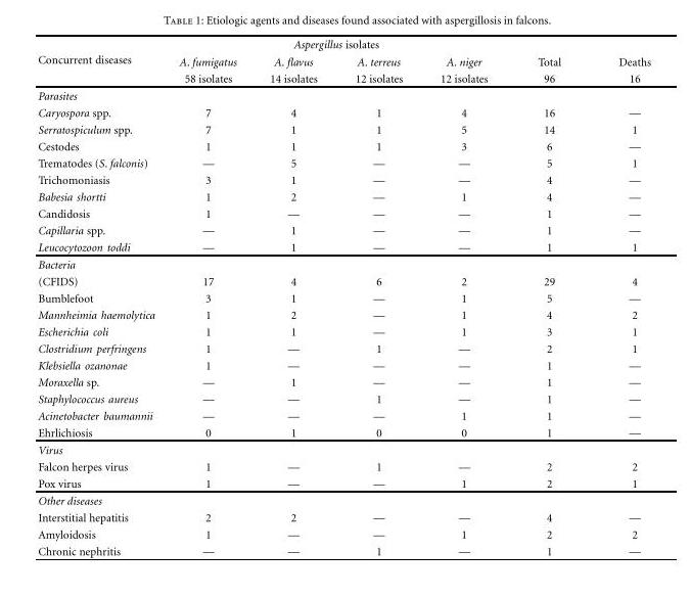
<table><thead><tr><td rowspan="3">Concurrent diseases</td><td rowspan="3">A. fumigatus 58 isolates</td><td colspan="2">Aspergillus isolates</td><td rowspan="3">A. niger 12 isolates</td><td rowspan="3">Total 96</td><td rowspan="3">Deaths 16</td></tr><tr><td rowspan="2">A. flavus 14 isolates</td><td rowspan="2">A. terreus 12 isolates</td></tr><tr></tr></thead><tbody><tr><td colspan="7">Parasites</td></tr><tr><td>Caryospora spp.</td><td>7</td><td>4</td><td>1</td><td>4</td><td>16</td><td>—</td></tr><tr><td>Serratospiculum spp.</td><td>7</td><td>1</td><td>1</td><td>5</td><td>14</td><td>1</td></tr><tr><td>Cestodes</td><td>1</td><td>1</td><td>1</td><td>3</td><td>6</td><td>—</td></tr><tr><td>Trematodes (S. falconis)</td><td>—</td><td>5</td><td>—</td><td>—</td><td>5</td><td>1</td></tr><tr><td>Trichomoniasis</td><td>3</td><td>1</td><td>—</td><td>—</td><td>4</td><td>—</td></tr><tr><td>Babesia shortti</td><td>1</td><td>2</td><td>—</td><td>1</td><td>4</td><td>—</td></tr><tr><td>Candidosis</td><td>1</td><td>—</td><td>—</td><td>—</td><td>1</td><td>—</td></tr><tr><td>Capillaria spp.</td><td>—</td><td>1</td><td>—</td><td>—</td><td>1</td><td>—</td></tr><tr><td>Leucocytozoon toddi</td><td>—</td><td>1</td><td>—</td><td>—</td><td>1</td><td>1</td></tr><tr><td colspan="7">Bacteria</td></tr><tr><td>(CFIDS)</td><td>17</td><td>4</td><td>6</td><td>2</td><td>29</td><td>4</td></tr><tr><td>Bumblefoot</td><td>3</td><td>1</td><td>—</td><td>1</td><td>5</td><td>—</td></tr><tr><td>Mannheimia haemolytica</td><td>1</td><td>2</td><td>—</td><td>1</td><td>4</td><td>2</td></tr><tr><td>Escherichia coli</td><td>1</td><td>1</td><td>—</td><td>1</td><td>3</td><td>1</td></tr><tr><td>Clostridium perfringens</td><td>1</td><td>—</td><td>1</td><td>—</td><td>2</td><td>1</td></tr><tr><td>Klebsiella ozanonae</td><td>1</td><td>—</td><td>—</td><td>—</td><td>1</td><td>—</td></tr><tr><td>Moraxella sp.</td><td>—</td><td>1</td><td>—</td><td>—</td><td>1</td><td>—</td></tr><tr><td>Staphylococcus aureus</td><td>—</td><td>—</td><td>1</td><td>—</td><td>1</td><td>—</td></tr><tr><td>Acinetobacter baumannii</td><td>—</td><td>—</td><td>—</td><td>1</td><td>1</td><td>—</td></tr><tr><td>Ehrlichiosis</td><td>0</td><td>1</td><td>0</td><td>0</td><td>1</td><td>—</td></tr><tr><td colspan="7">Virus</td></tr><tr><td>Falcon herpes virus</td><td>1</td><td>—</td><td>1</td><td>—</td><td>2</td><td>2</td></tr><tr><td>Pox virus</td><td>1</td><td>—</td><td>—</td><td>1</td><td>2</td><td>1</td></tr><tr><td colspan="7">Other diseases</td></tr><tr><td>Interstitial hepatitis</td><td>2</td><td>2</td><td>—</td><td>—</td><td>4</td><td>—</td></tr><tr><td>Amyloidosis</td><td>1</td><td>—</td><td>—</td><td>1</td><td>2</td><td>2</td></tr><tr><td>Chronic nephritis</td><td>—</td><td>—</td><td>1</td><td>—</td><td>1</td><td>—</td></tr></tbody></table>